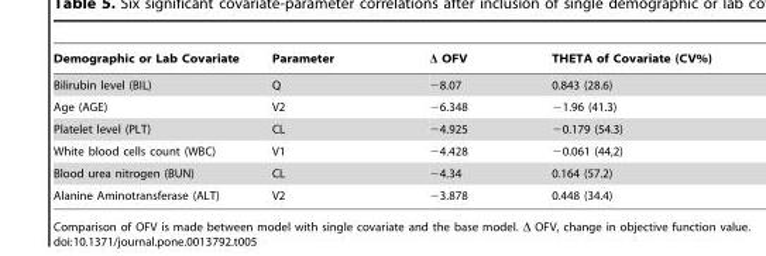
<table><thead><tr><td>Demographic or Lab Covariate</td><td>Parameter</td><td>Δ OFV</td><td>THETA of Covariate (CV%)</td></tr></thead><tbody><tr><td>Bilirubin level (BIL)</td><td>Q</td><td>−8.07</td><td>0.843 (28.6)</td></tr><tr><td>Age (AGE)</td><td>V2</td><td>−6.348</td><td>−1.96 (41.3)</td></tr><tr><td>Platelet level (PLT)</td><td>CL</td><td>−4.925</td><td>−0.179 (54.3)</td></tr><tr><td>White blood cells count (WBC)</td><td>V1</td><td>−4.428</td><td>−0.061 (44,2)</td></tr><tr><td>Blood urea nitrogen (BUN)</td><td>CL</td><td>−4.34</td><td>0.164 (57.2)</td></tr><tr><td>Alanine Aminotransferase (ALT)</td><td>V2</td><td>−3.878</td><td>0.448 (34.4)</td></tr></tbody></table>